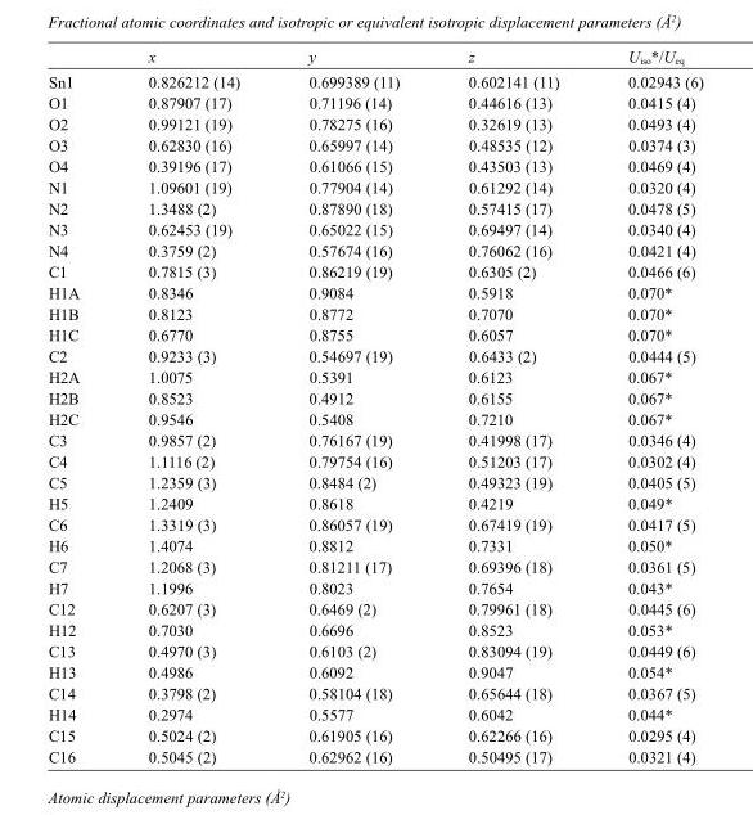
<table><thead><tr><td></td><td>x</td><td>y</td><td>z</td><td>U<sub>iso</sub>*/U<sub>eq</sub></td></tr></thead><tbody><tr><td>Sn1</td><td>0.826212 (14)</td><td>0.699389 (11)</td><td>0.602141 (11)</td><td>0.02943 (6)</td></tr><tr><td>O1</td><td>0.87907 (17)</td><td>0.71196 (14)</td><td>0.44616 (13)</td><td>0.0415 (4)</td></tr><tr><td>O2</td><td>0.99121 (19)</td><td>0.78275 (16)</td><td>0.32619 (13)</td><td>0.0493 (4)</td></tr><tr><td>O3</td><td>0.62830 (16)</td><td>0.65997 (14)</td><td>0.48535 (12)</td><td>0.0374 (3)</td></tr><tr><td>O4</td><td>0.39196 (17)</td><td>0.61066 (15)</td><td>0.43503 (13)</td><td>0.0469 (4)</td></tr><tr><td>N1</td><td>1.09601 (19)</td><td>0.77904 (14)</td><td>0.61292 (14)</td><td>0.0320 (4)</td></tr><tr><td>N2</td><td>1.3488 (2)</td><td>0.87890 (18)</td><td>0.57415 (17)</td><td>0.0478 (5)</td></tr><tr><td>N3</td><td>0.62453 (19)</td><td>0.65022 (15)</td><td>0.69497 (14)</td><td>0.0340 (4)</td></tr><tr><td>N4</td><td>0.3759 (2)</td><td>0.57674 (16)</td><td>0.76062 (16)</td><td>0.0421 (4)</td></tr><tr><td>C1</td><td>0.7815 (3)</td><td>0.86219 (19)</td><td>0.6305 (2)</td><td>0.0466 (6)</td></tr><tr><td>H1A</td><td>0.8346</td><td>0.9084</td><td>0.5918</td><td>0.070*</td></tr><tr><td>H1B</td><td>0.8123</td><td>0.8772</td><td>0.7070</td><td>0.070*</td></tr><tr><td>H1C</td><td>0.6770</td><td>0.8755</td><td>0.6057</td><td>0.070*</td></tr><tr><td>C2</td><td>0.9233 (3)</td><td>0.54697 (19)</td><td>0.6433 (2)</td><td>0.0444 (5)</td></tr><tr><td>H2A</td><td>1.0075</td><td>0.5391</td><td>0.6123</td><td>0.067*</td></tr><tr><td>H2B</td><td>0.8523</td><td>0.4912</td><td>0.6155</td><td>0.067*</td></tr><tr><td>H2C</td><td>0.9546</td><td>0.5408</td><td>0.7210</td><td>0.067*</td></tr><tr><td>C3</td><td>0.9857 (2)</td><td>0.76167 (19)</td><td>0.41998 (17)</td><td>0.0346 (4)</td></tr><tr><td>C4</td><td>1.1116 (2)</td><td>0.79754 (16)</td><td>0.51203 (17)</td><td>0.0302 (4)</td></tr><tr><td>C5</td><td>1.2359 (3)</td><td>0.8484 (2)</td><td>0.49323 (19)</td><td>0.0405 (5)</td></tr><tr><td>H5</td><td>1.2409</td><td>0.8618</td><td>0.4219</td><td>0.049*</td></tr><tr><td>C6</td><td>1.3319 (3)</td><td>0.86057 (19)</td><td>0.67419 (19)</td><td>0.0417 (5)</td></tr><tr><td>H6</td><td>1.4074</td><td>0.8812</td><td>0.7331</td><td>0.050*</td></tr><tr><td>C7</td><td>1.2068 (3)</td><td>0.81211 (17)</td><td>0.69396 (18)</td><td>0.0361 (5)</td></tr><tr><td>H7</td><td>1.1996</td><td>0.8023</td><td>0.7654</td><td>0.043*</td></tr><tr><td>C12</td><td>0.6207 (3)</td><td>0.6469 (2)</td><td>0.79961 (18)</td><td>0.0445 (6)</td></tr><tr><td>H12</td><td>0.7030</td><td>0.6696</td><td>0.8523</td><td>0.053*</td></tr><tr><td>C13</td><td>0.4970 (3)</td><td>0.6103 (2)</td><td>0.83094 (19)</td><td>0.0449 (6)</td></tr><tr><td>H13</td><td>0.4986</td><td>0.6092</td><td>0.9047</td><td>0.054*</td></tr><tr><td>C14</td><td>0.3798 (2)</td><td>0.58104 (18)</td><td>0.65644 (18)</td><td>0.0367 (5)</td></tr><tr><td>H14</td><td>0.2974</td><td>0.5577</td><td>0.6042</td><td>0.044*</td></tr><tr><td>C15</td><td>0.5024 (2)</td><td>0.61905 (16)</td><td>0.62266 (16)</td><td>0.0295 (4)</td></tr><tr><td>C16</td><td>0.5045 (2)</td><td>0.62962 (16)</td><td>0.50495 (17)</td><td>0.0321 (4)</td></tr></tbody></table>